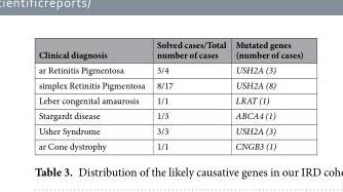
<table><thead><tr><td>Clinical diagnosis</td><td>Solved cases/Total number of cases</td><td>Mutated genes (number of cases)</td></tr></thead><tbody><tr><td>ar Retinitis Pigmentosa</td><td>3/4</td><td>USH2A (3)</td></tr><tr><td>simplex Retinitis Pigmentosa</td><td>8/17</td><td>USH2A (8)</td></tr><tr><td>Leber congenital amaurosis</td><td>1/1</td><td>LRAT (1)</td></tr><tr><td>Stargardt disease</td><td>1/3</td><td>ABCA4 (1)</td></tr><tr><td>Usher Syndrome</td><td>3/3</td><td>USH2A (3)</td></tr><tr><td>ar Cone dystrophy</td><td>1/1</td><td>CNGB3 (1)</td></tr></tbody></table>